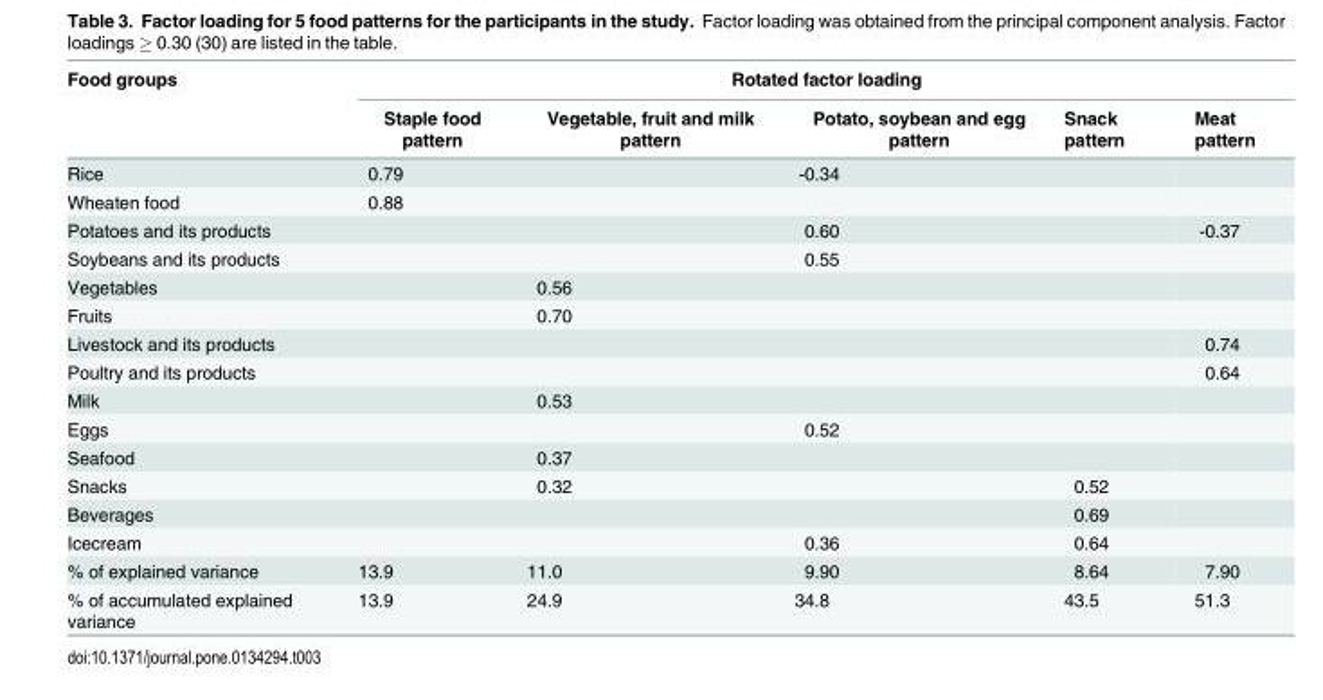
<table><thead><tr><td rowspan="2">Food groups</td><td colspan="5">Rotated factor loading</td></tr><tr><td>Staple food pattern</td><td>Vegetable, fruit and milk pattern</td><td>Potato, soybean and egg pattern</td><td>Snack pattern</td><td>Meat pattern</td></tr></thead><tbody><tr><td>Rice</td><td>0.79</td><td></td><td>-0.34</td><td></td><td></td></tr><tr><td>Wheaten food</td><td>0.88</td><td></td><td></td><td></td><td></td></tr><tr><td>Potatoes and its products</td><td></td><td></td><td>0.60</td><td></td><td>-0.37</td></tr><tr><td>Soybeans and its products</td><td></td><td></td><td>0.55</td><td></td><td></td></tr><tr><td>Vegetables</td><td></td><td>0.56</td><td></td><td></td><td></td></tr><tr><td>Fruits</td><td></td><td>0.70</td><td></td><td></td><td></td></tr><tr><td>Livestock and its products</td><td></td><td></td><td></td><td></td><td>0.74</td></tr><tr><td>Poultry and its products</td><td></td><td></td><td></td><td></td><td>0.64</td></tr><tr><td>Milk</td><td></td><td>0.53</td><td></td><td></td><td></td></tr><tr><td>Eggs</td><td></td><td></td><td>0.52</td><td></td><td></td></tr><tr><td>Seafood</td><td></td><td>0.37</td><td></td><td></td><td></td></tr><tr><td>Snacks</td><td></td><td>0.32</td><td></td><td>0.52</td><td></td></tr><tr><td>Beverages</td><td></td><td></td><td></td><td>0.69</td><td></td></tr><tr><td>Icecream</td><td></td><td></td><td>0.36</td><td>0.64</td><td></td></tr><tr><td>% of explained variance</td><td>13.9</td><td>11.0</td><td>9.90</td><td>8.64</td><td>7.90</td></tr><tr><td>% of accumulated explained variance</td><td>13.9</td><td>24.9</td><td>34.8</td><td>43.5</td><td>51.3</td></tr></tbody></table>